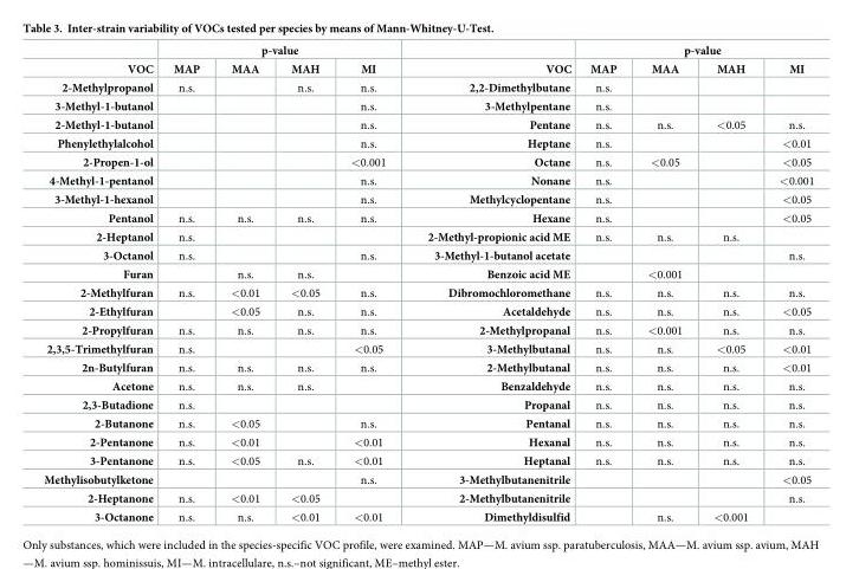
<table><thead><tr><td rowspan="2">VOC</td><td colspan="4">p-value</td><td rowspan="2">VOC</td><td colspan="4">p-value</td></tr><tr><td>MAP</td><td>MAA</td><td>MAH</td><td>MI</td><td>MAP</td><td>MAA</td><td>MAH</td><td>MI</td></tr></thead><tbody><tr><td>2-Methylpropanol</td><td>n.s.</td><td></td><td>n.s.</td><td>n.s.</td><td>2,2-Dimethylbutane</td><td>n.s.</td><td></td><td></td><td></td></tr><tr><td>3-Methyl-1-butanol</td><td></td><td></td><td></td><td>n.s.</td><td>3-Methylpentane</td><td>n.s.</td><td></td><td></td><td></td></tr><tr><td>2-Methyl-1-butanol</td><td></td><td></td><td></td><td>n.s.</td><td>Pentane</td><td>n.s.</td><td>n.s.</td><td>&lt;0.05</td><td>n.s.</td></tr><tr><td>Phenylethylalcohol</td><td></td><td></td><td></td><td>n.s.</td><td>Heptane</td><td>n.s.</td><td></td><td></td><td>&lt;0.01</td></tr><tr><td>2-Propen-1-ol</td><td></td><td></td><td></td><td>&lt;0.001</td><td>Octane</td><td>n.s.</td><td>&lt;0.05</td><td></td><td>&lt;0.05</td></tr><tr><td>4-Methyl-1-pentanol</td><td></td><td></td><td></td><td>n.s.</td><td>Nonane</td><td>n.s.</td><td></td><td></td><td>&lt;0.001</td></tr><tr><td>3-Methyl-1-hexanol</td><td></td><td></td><td></td><td>n.s.</td><td>Methylcyclopentane</td><td>n.s.</td><td></td><td></td><td>&lt;0.05</td></tr><tr><td>Pentanol</td><td>n.s.</td><td>n.s.</td><td>n.s.</td><td>n.s.</td><td>Hexane</td><td>n.s.</td><td></td><td></td><td>&lt;0.05</td></tr><tr><td>2-Heptanol</td><td>n.s.</td><td></td><td></td><td></td><td>2-Methyl-propionic acid ME</td><td>n.s.</td><td>n.s.</td><td>n.s.</td><td></td></tr><tr><td>3-Octanol</td><td>n.s.</td><td></td><td></td><td>n.s.</td><td>3-Methyl-1-butanol acetate</td><td></td><td></td><td></td><td>n.s.</td></tr><tr><td>Furan</td><td></td><td>n.s.</td><td>n.s.</td><td></td><td>Benzoic acid ME</td><td></td><td>&lt;0.001</td><td></td><td></td></tr><tr><td>2-Methylfuran</td><td>n.s.</td><td>&lt;0.01</td><td>&lt;0.05</td><td>n.s.</td><td>Dibromochloromethane</td><td>n.s.</td><td>n.s.</td><td>n.s.</td><td>n.s.</td></tr><tr><td>2-Ethylfuran</td><td></td><td>&lt;0.05</td><td>n.s.</td><td>n.s.</td><td>Acetaldehyde</td><td>n.s.</td><td>n.s.</td><td>n.s.</td><td>&lt;0.05</td></tr><tr><td>2-Propylfuran</td><td>n.s.</td><td>n.s.</td><td>n.s.</td><td>n.s.</td><td>2-Methylpropanal</td><td>n.s.</td><td>&lt;0.001</td><td>n.s.</td><td>n.s.</td></tr><tr><td>2,3,5-Trimethylfuran</td><td>n.s.</td><td></td><td></td><td>&lt;0.05</td><td>3-Methylbutanal</td><td>n.s.</td><td>n.s.</td><td>&lt;0.05</td><td>&lt;0.01</td></tr><tr><td>2n-Butylfuran</td><td>n.s.</td><td>n.s.</td><td>n.s.</td><td>n.s.</td><td>2-Methylbutanal</td><td>n.s.</td><td>n.s.</td><td>n.s.</td><td>&lt;0.01</td></tr><tr><td>Acetone</td><td>n.s.</td><td>n.s.</td><td>n.s.</td><td></td><td>Benzaldehyde</td><td>n.s.</td><td>n.s.</td><td>n.s.</td><td>n.s.</td></tr><tr><td>2,3-Butadione</td><td>n.s.</td><td></td><td></td><td></td><td>Propanal</td><td>n.s.</td><td>n.s.</td><td>n.s.</td><td>n.s.</td></tr><tr><td>2-Butanone</td><td>n.s.</td><td>&lt;0.05</td><td></td><td>n.s.</td><td>Pentanal</td><td>n.s.</td><td>n.s.</td><td>n.s.</td><td>n.s.</td></tr><tr><td>2-Pentanone</td><td>n.s.</td><td>&lt;0.01</td><td></td><td>&lt;0.01</td><td>Hexanal</td><td>n.s.</td><td>n.s.</td><td>n.s.</td><td>n.s.</td></tr><tr><td>3-Pentanone</td><td>n.s.</td><td>&lt;0.05</td><td>n.s.</td><td>&lt;0.01</td><td>Heptanal</td><td>n.s.</td><td>n.s.</td><td>n.s.</td><td>n.s.</td></tr><tr><td>Methylisobutylketone</td><td></td><td></td><td></td><td>n.s.</td><td>3-Methylbutanenitrile</td><td></td><td></td><td></td><td>&lt;0.05</td></tr><tr><td>2-Heptanone</td><td>n.s.</td><td>&lt;0.01</td><td>&lt;0.05</td><td></td><td>2-Methylbutanenitrile</td><td></td><td></td><td></td><td>n.s.</td></tr><tr><td>3-Octanone</td><td>n.s.</td><td>n.s.</td><td>&lt;0.01</td><td>&lt;0.01</td><td>Dimethyldisulfid</td><td></td><td>n.s.</td><td>&lt;0.001</td><td></td></tr></tbody></table>